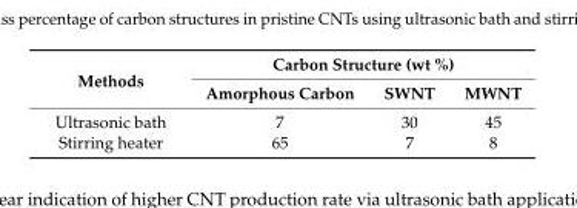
<table><thead><tr><td rowspan="2">Methods</td><td colspan="3">Carbon Structure (wt %)</td></tr><tr><td>Amorphous Carbon</td><td>SWNT</td><td>MWNT</td></tr></thead><tbody><tr><td>Ultrasonic bath</td><td>7</td><td>30</td><td>45</td></tr><tr><td>Stirring heater</td><td>65</td><td>7</td><td>8</td></tr></tbody></table>